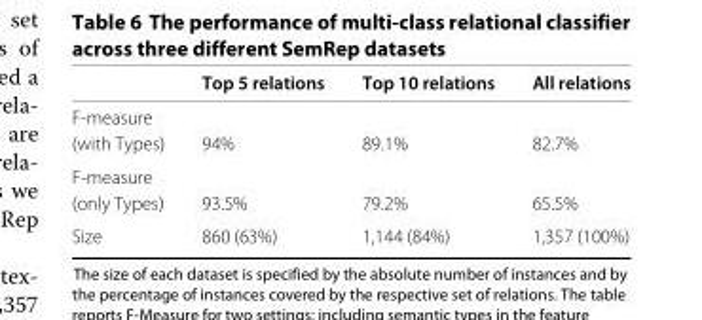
<table><thead><tr><td></td><td>Top 5 relations</td><td>Top 10 relations</td><td>All relations</td></tr></thead><tbody><tr><td colspan="4">F-measure</td></tr><tr><td>(with Types)</td><td>94%</td><td>89.1%</td><td>82.7%</td></tr><tr><td colspan="4">F-measure</td></tr><tr><td>(only Types)</td><td>93.5%</td><td>79.2%</td><td>65.5%</td></tr><tr><td>Size</td><td>860 (63%)</td><td>1,144 (84%)</td><td>1,357 (100%)</td></tr></tbody></table>